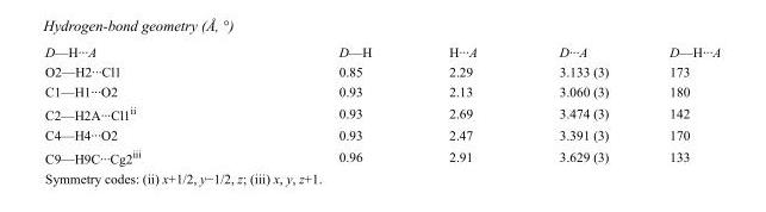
<table><tbody><tr><td>D—H···A</td><td>D—H</td><td>H···A</td><td>D···A</td><td>D—H···A</td></tr><tr><td>O2—H2···Cl1</td><td>0.85</td><td>2.29</td><td>3.133 (3)</td><td>173</td></tr><tr><td>C1—H1···O2</td><td>0.93</td><td>2.13</td><td>3.060 (3)</td><td>180</td></tr><tr><td>C2—H2A···Cl1<sup>ii</sup></td><td>0.93</td><td>2.69</td><td>3.474 (3)</td><td>142</td></tr><tr><td>C4—H4···O2</td><td>0.93</td><td>2.47</td><td>3.391 (3)</td><td>170</td></tr><tr><td>C9—H9C···Cg2<sup>iii</sup></td><td>0.96</td><td>2.91</td><td>3.629 (3)</td><td>133</td></tr></tbody></table>